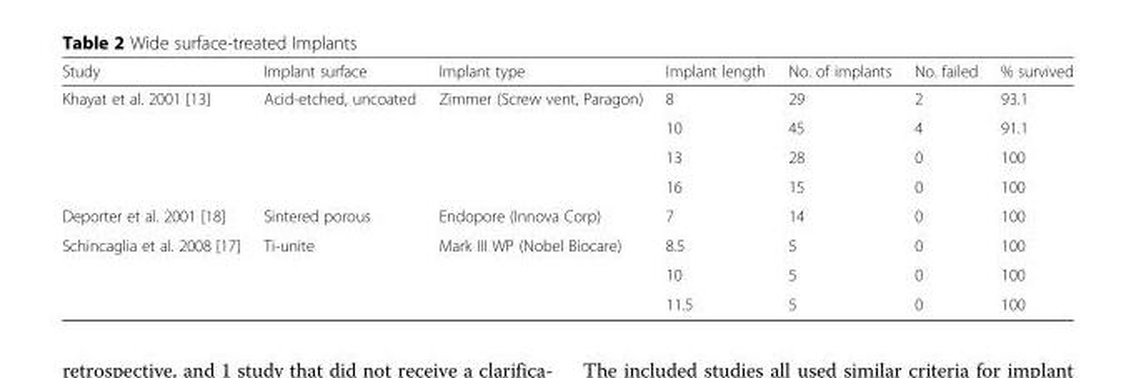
<table><thead><tr><td>Study</td><td>Implant surface</td><td>Implant type</td><td>Implant length</td><td>No. of implants</td><td>No. failed</td><td>% survived</td></tr></thead><tbody><tr><td rowspan="4">Khayat et al. 2001 [13]</td><td rowspan="4">Acid-etched, uncoated</td><td rowspan="4">Zimmer (Screw vent, Paragon)</td><td>8</td><td>29</td><td>2</td><td>93.1</td></tr><tr><td>10</td><td>45</td><td>4</td><td>91.1</td></tr><tr><td>13</td><td>28</td><td>0</td><td>100</td></tr><tr><td>16</td><td>15</td><td>0</td><td>100</td></tr><tr><td>Deporter et al. 2001 [18]</td><td>Sintered porous</td><td>Endopore (Innova Corp)</td><td>7</td><td>14</td><td>0</td><td>100</td></tr><tr><td rowspan="3">Schincaglia et al. 2008 [17]</td><td rowspan="3">Ti-unite</td><td rowspan="3">Mark III WP (Nobel Biocare)</td><td>8.5</td><td>5</td><td>0</td><td>100</td></tr><tr><td>10</td><td>5</td><td>0</td><td>100</td></tr><tr><td>11.5</td><td>5</td><td>0</td><td>100</td></tr></tbody></table>